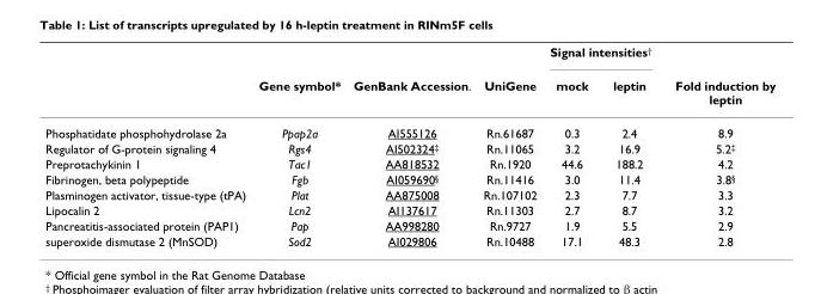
<table><thead><tr><td rowspan="2"></td><td rowspan="2">Gene symbol*</td><td rowspan="2">GenBank Accession.</td><td rowspan="2">UniGene</td><td colspan="2">Signal intensities†</td><td rowspan="2">Fold induction by leptin</td></tr><tr><td>mock</td><td>leptin</td></tr></thead><tbody><tr><td>Phosphatidate phosphohydrolase 2a</td><td>Ppap2a</td><td>AI555126</td><td>Rn.61687</td><td>0.3</td><td>2.4</td><td>8.9</td></tr><tr><td>Regulator of G-protein signaling 4</td><td>Rgs4</td><td>AI502324‡</td><td>Rn.11065</td><td>3.2</td><td>16.9</td><td>5.2‡</td></tr><tr><td>Preprotachykinin 1</td><td>Tac1</td><td>AA818532</td><td>Rn.1920</td><td>44.6</td><td>188.2</td><td>4.2</td></tr><tr><td>Fibrinogen, beta polypeptide</td><td>Fgb</td><td>AI059690§</td><td>Rn.11416</td><td>3.0</td><td>11.4</td><td>3.8§</td></tr><tr><td>Plasminogen activator, tissue-type (tPA)</td><td>Plat</td><td>AA875008</td><td>Rn.107102</td><td>2.3</td><td>7.7</td><td>3.3</td></tr><tr><td>Lipocalin 2</td><td>Lcn2</td><td>AI137617</td><td>Rn.11303</td><td>2.7</td><td>8.7</td><td>3.2</td></tr><tr><td>Pancreatitis-associated protein (PAP1)</td><td>Pap</td><td>AA998280</td><td>Rn.9727</td><td>1.9</td><td>5.5</td><td>2.9</td></tr><tr><td>superoxide dismutase 2 (MnSOD)</td><td>Sod2</td><td>AI029806</td><td>Rn.10488</td><td>17.1</td><td>48.3</td><td>2.8</td></tr></tbody></table>